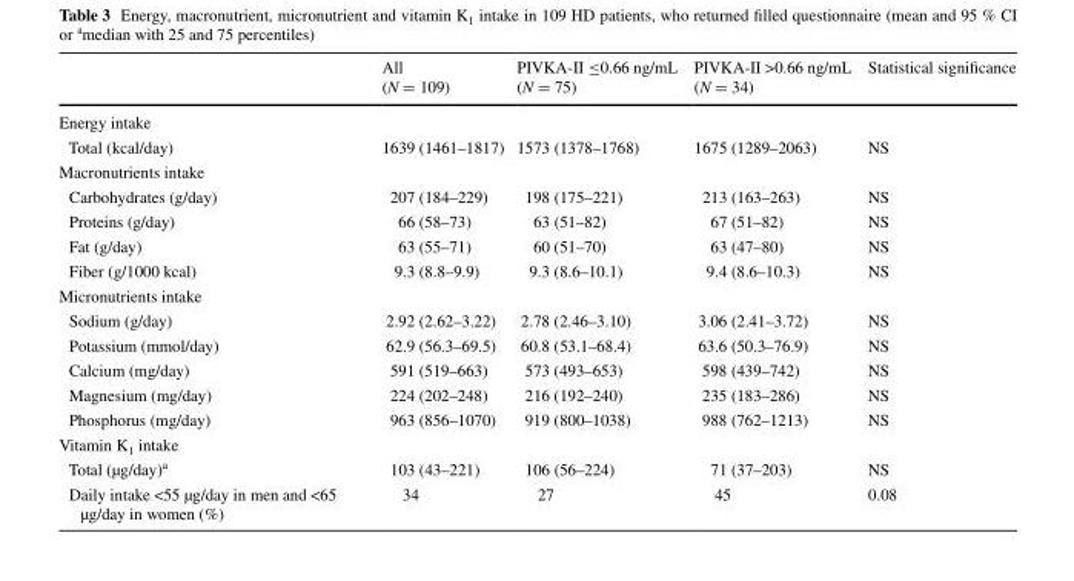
<table><thead><tr><td></td><td>All (N = 109)</td><td>PIVKA-II ≤0.66 ng/mL (N = 75)</td><td>PIVKA-II &gt;0.66 ng/mL (N = 34)</td><td>Statistical significance</td></tr></thead><tbody><tr><td colspan="5">Energy intake</td></tr><tr><td>Total (kcal/day)</td><td>1639 (1461–1817)</td><td>1573 (1378–1768)</td><td>1675 (1289–2063)</td><td>NS</td></tr><tr><td colspan="5">Macronutrients intake</td></tr><tr><td>Carbohydrates (g/day)</td><td>207 (184–229)</td><td>198 (175–221)</td><td>213 (163–263)</td><td>NS</td></tr><tr><td>Proteins (g/day)</td><td>66 (58–73)</td><td>63 (51–82)</td><td>67 (51–82)</td><td>NS</td></tr><tr><td>Fat (g/day)</td><td>63 (55–71)</td><td>60 (51–70)</td><td>63 (47–80)</td><td>NS</td></tr><tr><td>Fiber (g/1000 kcal)</td><td>9.3 (8.8–9.9)</td><td>9.3 (8.6–10.1)</td><td>9.4 (8.6–10.3)</td><td>NS</td></tr><tr><td colspan="5">Micronutrients intake</td></tr><tr><td>Sodium (g/day)</td><td>2.92 (2.62–3.22)</td><td>2.78 (2.46–3.10)</td><td>3.06 (2.41–3.72)</td><td>NS</td></tr><tr><td>Potassium (mmol/day)</td><td>62.9 (56.3–69.5)</td><td>60.8 (53.1–68.4)</td><td>63.6 (50.3–76.9)</td><td>NS</td></tr><tr><td>Calcium (mg/day)</td><td>591 (519–663)</td><td>573 (493–653)</td><td>598 (439–742)</td><td>NS</td></tr><tr><td>Magnesium (mg/day)</td><td>224 (202–248)</td><td>216 (192–240)</td><td>235 (183–286)</td><td>NS</td></tr><tr><td>Phosphorus (mg/day)</td><td>963 (856–1070)</td><td>919 (800–1038)</td><td>988 (762–1213)</td><td>NS</td></tr><tr><td colspan="5">Vitamin K<sub>1</sub> intake</td></tr><tr><td>Total (µg/day)<sup>a</sup></td><td>103 (43–221)</td><td>106 (56–224)</td><td>71 (37–203)</td><td>NS</td></tr><tr><td>Daily intake &lt;55 µg/day in men and &lt;65 µg/day in women (%)</td><td>34</td><td>27</td><td>45</td><td>0.08</td></tr></tbody></table>